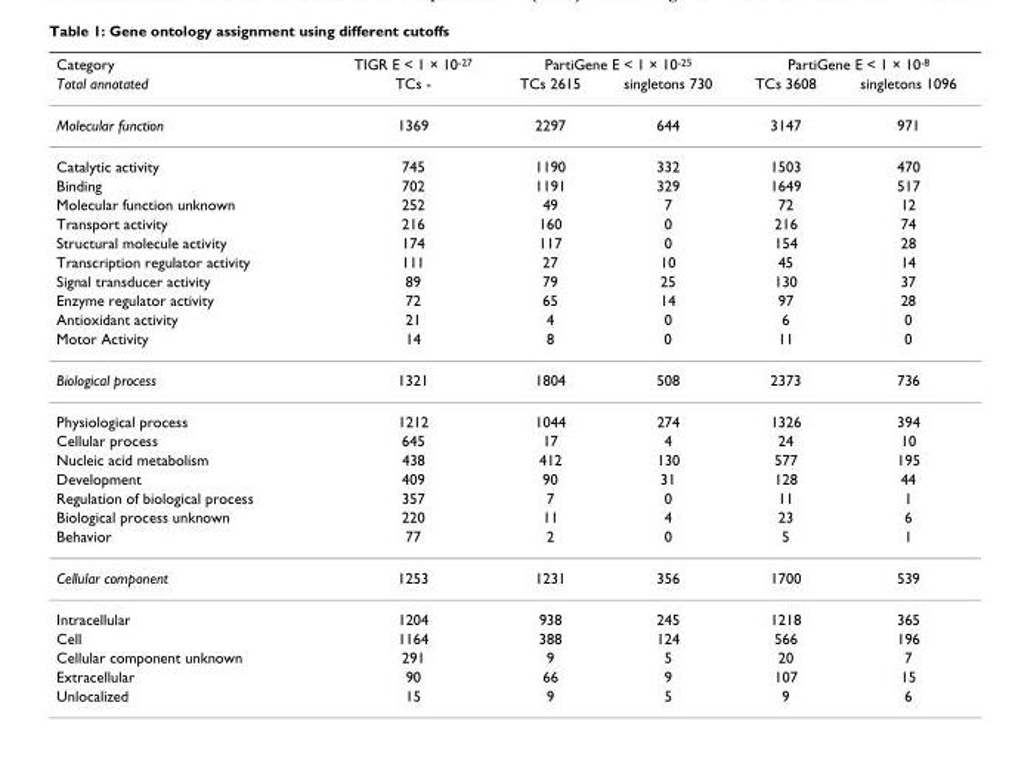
<table><thead><tr><td rowspan="2">Category Total annotated</td><td rowspan="2">TIGR E &lt; 1 × 10-27 TCs -</td><td colspan="2">PartiGene E &lt; 1 × 10-25</td><td colspan="2">PartiGene E &lt; 1 × 10-8</td></tr><tr><td>TCs 2615</td><td>singletons 730</td><td>TCs 3608</td><td>singletons 1096</td></tr></thead><tbody><tr><td>Molecular function</td><td>1369</td><td>2297</td><td>644</td><td>3147</td><td>971</td></tr><tr><td>Catalytic activity</td><td>745</td><td>1190</td><td>332</td><td>1503</td><td>470</td></tr><tr><td>Binding</td><td>702</td><td>1191</td><td>329</td><td>1649</td><td>517</td></tr><tr><td>Molecular function unknown</td><td>252</td><td>49</td><td>7</td><td>72</td><td>12</td></tr><tr><td>Transport activity</td><td>216</td><td>160</td><td>0</td><td>216</td><td>74</td></tr><tr><td>Structural molecule activity</td><td>174</td><td>117</td><td>0</td><td>154</td><td>28</td></tr><tr><td>Transcription regulator activity</td><td>111</td><td>27</td><td>10</td><td>45</td><td>14</td></tr><tr><td>Signal transducer activity</td><td>89</td><td>79</td><td>25</td><td>130</td><td>37</td></tr><tr><td>Enzyme regulator activity</td><td>72</td><td>65</td><td>14</td><td>97</td><td>28</td></tr><tr><td>Antioxidant activity</td><td>21</td><td>4</td><td>0</td><td>6</td><td>0</td></tr><tr><td>Motor Activity</td><td>14</td><td>8</td><td>0</td><td>11</td><td>0</td></tr><tr><td>Biological process</td><td>1321</td><td>1804</td><td>508</td><td>2373</td><td>736</td></tr><tr><td>Physiological process</td><td>1212</td><td>1044</td><td>274</td><td>1326</td><td>394</td></tr><tr><td>Cellular process</td><td>645</td><td>17</td><td>4</td><td>24</td><td>10</td></tr><tr><td>Nucleic acid metabolism</td><td>438</td><td>412</td><td>130</td><td>577</td><td>195</td></tr><tr><td>Development</td><td>409</td><td>90</td><td>31</td><td>128</td><td>44</td></tr><tr><td>Regulation of biological process</td><td>357</td><td>7</td><td>0</td><td>11</td><td>1</td></tr><tr><td>Biological process unknown</td><td>220</td><td>11</td><td>4</td><td>23</td><td>6</td></tr><tr><td>Behavior</td><td>77</td><td>2</td><td>0</td><td>5</td><td>1</td></tr><tr><td>Cellular component</td><td>1253</td><td>1231</td><td>356</td><td>1700</td><td>539</td></tr><tr><td>Intracellular</td><td>1204</td><td>938</td><td>245</td><td>1218</td><td>365</td></tr><tr><td>Cell</td><td>1164</td><td>388</td><td>124</td><td>566</td><td>196</td></tr><tr><td>Cellular component unknown</td><td>291</td><td>9</td><td>5</td><td>20</td><td>7</td></tr><tr><td>Extracellular</td><td>90</td><td>66</td><td>9</td><td>107</td><td>15</td></tr><tr><td>Unlocalized</td><td>15</td><td>9</td><td>5</td><td>9</td><td>6</td></tr></tbody></table>